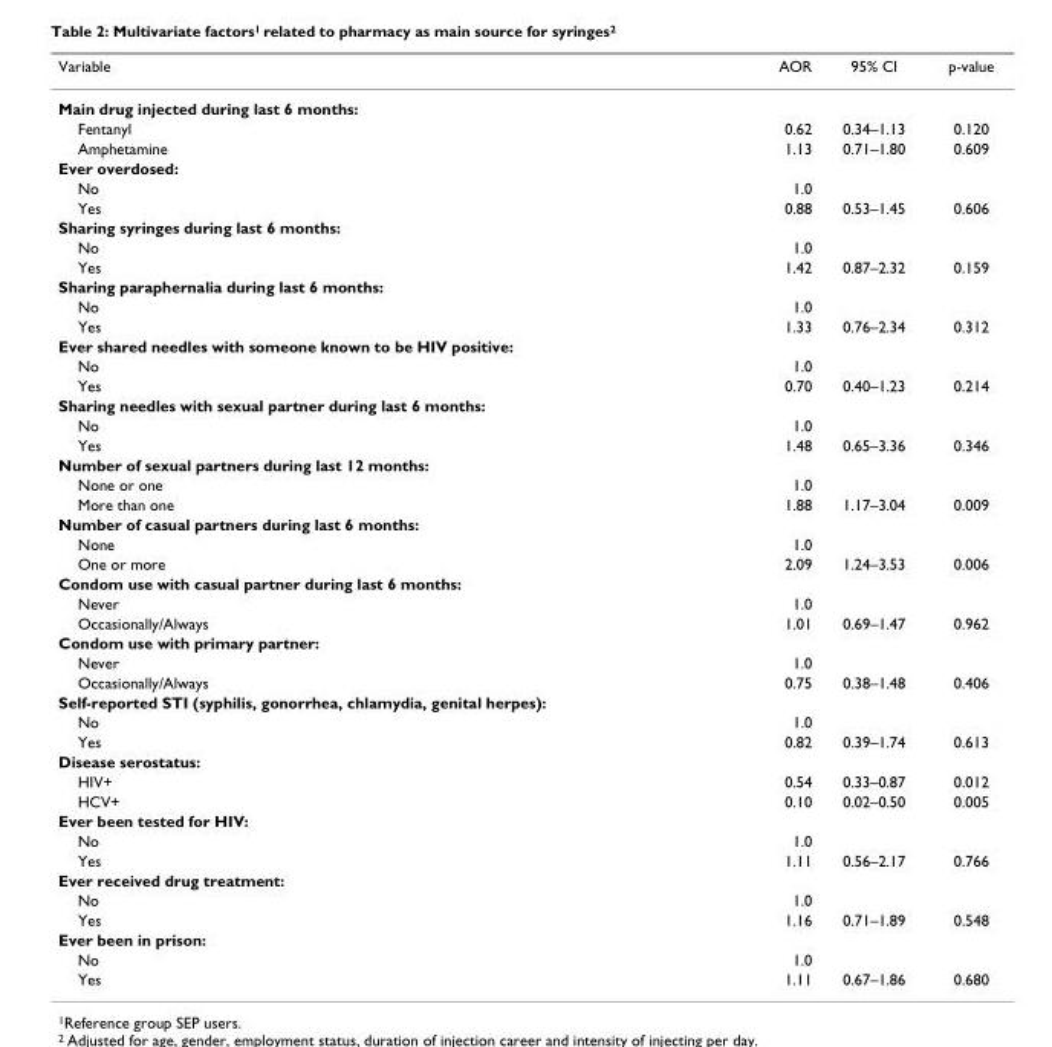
<table><thead><tr><td>Variable</td><td>AOR</td><td>95% CI</td><td>p-value</td></tr></thead><tbody><tr><td colspan="4">Main drug injected during last 6 months:</td></tr><tr><td>Fentanyl</td><td>0.62</td><td>0.34–1.13</td><td>0.120</td></tr><tr><td>Amphetamine</td><td>1.13</td><td>0.71–1.80</td><td>0.609</td></tr><tr><td colspan="4">Ever overdosed:</td></tr><tr><td>No</td><td>1.0</td><td></td><td></td></tr><tr><td>Yes</td><td>0.88</td><td>0.53–1.45</td><td>0.606</td></tr><tr><td colspan="4">Sharing syringes during last 6 months:</td></tr><tr><td>No</td><td>1.0</td><td></td><td></td></tr><tr><td>Yes</td><td>1.42</td><td>0.87–2.32</td><td>0.159</td></tr><tr><td colspan="4">Sharing paraphernalia during last 6 months:</td></tr><tr><td>No</td><td>1.0</td><td></td><td></td></tr><tr><td>Yes</td><td>1.33</td><td>0.76–2.34</td><td>0.312</td></tr><tr><td colspan="4">Ever shared needles with someone known to be HIV positive:</td></tr><tr><td>No</td><td>1.0</td><td></td><td></td></tr><tr><td>Yes</td><td>0.70</td><td>0.40–1.23</td><td>0.214</td></tr><tr><td colspan="4">Sharing needles with sexual partner during last 6 months:</td></tr><tr><td>No</td><td>1.0</td><td></td><td></td></tr><tr><td>Yes</td><td>1.48</td><td>0.65–3.36</td><td>0.346</td></tr><tr><td colspan="4">Number of sexual partners during last 12 months:</td></tr><tr><td>None or one</td><td>1.0</td><td></td><td></td></tr><tr><td>More than one</td><td>1.88</td><td>1.17–3.04</td><td>0.009</td></tr><tr><td colspan="4">Number of casual partners during last 6 months:</td></tr><tr><td>None</td><td>1.0</td><td></td><td></td></tr><tr><td>One or more</td><td>2.09</td><td>1.24–3.53</td><td>0.006</td></tr><tr><td colspan="4">Condom use with casual partner during last 6 months:</td></tr><tr><td>Never</td><td>1.0</td><td></td><td></td></tr><tr><td>Occasionally/Always</td><td>1.01</td><td>0.69–1.47</td><td>0.962</td></tr><tr><td colspan="4">Condom use with primary partner:</td></tr><tr><td>Never</td><td>1.0</td><td></td><td></td></tr><tr><td>Occasionally/Always</td><td>0.75</td><td>0.38–1.48</td><td>0.406</td></tr><tr><td colspan="4">Self-reported STI (syphilis, gonorrhea, chlamydia, genital herpes):</td></tr><tr><td>No</td><td>1.0</td><td></td><td></td></tr><tr><td>Yes</td><td>0.82</td><td>0.39–1.74</td><td>0.613</td></tr><tr><td colspan="4">Disease serostatus:</td></tr><tr><td>HIV+</td><td>0.54</td><td>0.33–0.87</td><td>0.012</td></tr><tr><td>HCV+</td><td>0.10</td><td>0.02–0.50</td><td>0.005</td></tr><tr><td colspan="4">Ever been tested for HIV:</td></tr><tr><td>No</td><td>1.0</td><td></td><td></td></tr><tr><td>Yes</td><td>1.11</td><td>0.56–2.17</td><td>0.766</td></tr><tr><td colspan="4">Ever received drug treatment:</td></tr><tr><td>No</td><td>1.0</td><td></td><td></td></tr><tr><td>Yes</td><td>1.16</td><td>0.71–1.89</td><td>0.548</td></tr><tr><td colspan="4">Ever been in prison:</td></tr><tr><td>No</td><td>1.0</td><td></td><td></td></tr><tr><td>Yes</td><td>1.11</td><td>0.67–1.86</td><td>0.680</td></tr></tbody></table>